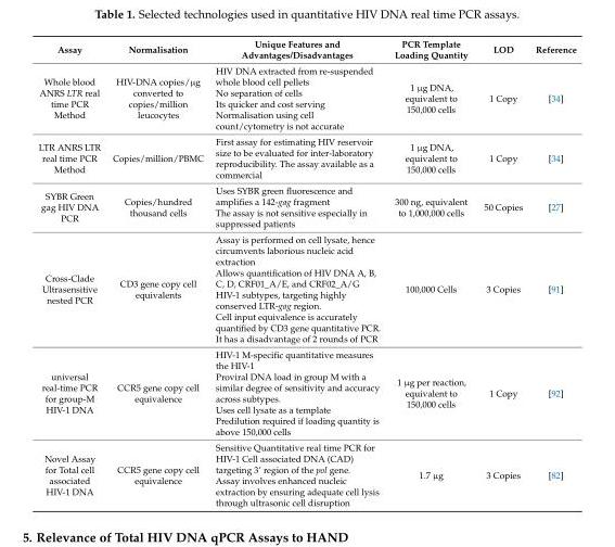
<table><thead><tr><td>Assay</td><td>Normalisation</td><td>Unique Features and Advantages/Disadvantages</td><td>PCR Template Loading Quantity</td><td>LOD</td><td>Reference</td></tr></thead><tbody><tr><td>Whole blood ANRS LTR real time PCR Method</td><td>HIV-DNA copies/µg converted to copies/million leucocytes</td><td>HIV DNA extracted from re-suspended whole blood cell pellets No separation of cells Its quicker and cost serving Normalisation using cell count/cytometry is not accurate</td><td>1 µg DNA, equivalent to 150,000 cells</td><td>1 Copy</td><td>[34]</td></tr><tr><td>LTR ANRS LTR real time PCR Method</td><td>Copies/million/PBMC</td><td>First assay for estimating HIV reservoir size to be evaluated for inter-laboratory reproducibility. The assay available as a commercial</td><td>1 µg DNA, equivalent to 150,000 cells</td><td>1 Copy</td><td>[34]</td></tr><tr><td>SYBR Green gag HIV DNA PCR</td><td>Copies/hundred thousand cells</td><td>Uses SYBR green fluorescence and amplifies a 142-gag fragment The assay is not sensitive especially in suppressed patients</td><td>300 ng, equivalent to 1,000,000 cells</td><td>50 Copies</td><td>[27]</td></tr><tr><td>Cross-Clade Ultrasensitive nested PCR</td><td>CD3 gene copy cell equivalents</td><td>Assay is performed on cell lysate, hence circumvents laborious nucleic acid extraction Allows quantification of HIV DNA A, B, C, D, CRF01_A/E, and CRF02_A/G HIV-1 subtypes, targeting highly conserved LTR-gag region. Cell input equivalence is accurately quantified by CD3 gene quantitative PCR. It has a disadvantage of 2 rounds of PCR</td><td>100,000 Cells</td><td>3 Copies</td><td>[91]</td></tr><tr><td>universal real-time PCR for group-M HIV-1 DNA</td><td>CCR5 gene copy cell equivalence</td><td>HIV-1 M-specific quantitative measures the HIV-1 Proviral DNA load in group M with a similar degree of sensitivity and accuracy across subtypes. Uses cell lysate as a template Predilution required if loading quantity is above 150,000 cells</td><td>1 µg per reaction, equivalent to 150,000 cells</td><td>1 Copy</td><td>[92]</td></tr><tr><td>Novel Assay for Total cell associated HIV-1 DNA</td><td>CCR5 gene copy cell equivalence</td><td>Sensitive Quantitative real time PCR for HIV-1 Cell associated DNA (CAD) targeting 3’ region of the pol gene. Assay involves enhanced nucleic extraction by ensuring adequate cell lysis through ultrasonic cell disruption</td><td>1.7 µg</td><td>3 Copies</td><td>[82]</td></tr></tbody></table>